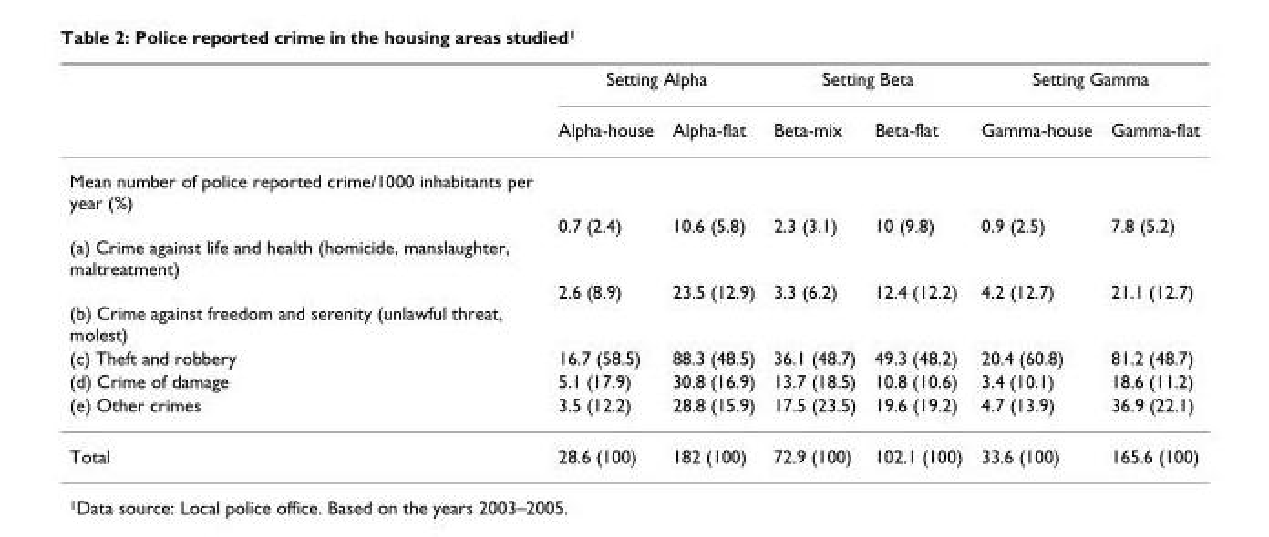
<table><thead><tr><td rowspan="2"></td><td colspan="2">Setting Alpha</td><td colspan="2">Setting Beta</td><td colspan="2">Setting Gamma</td></tr><tr><td>Alpha-house</td><td>Alpha-flat</td><td>Beta-mix</td><td>Beta-flat</td><td>Gamma-house</td><td>Gamma-flat</td></tr></thead><tbody><tr><td colspan="7">Mean number of police reported crime/1000 inhabitants per year (%)</td></tr><tr><td>(a) Crime against life and health (homicide, manslaughter, maltreatment)</td><td>0.7 (2.4)</td><td>10.6 (5.8)</td><td>2.3 (3.1)</td><td>10 (9.8)</td><td>0.9 (2.5)</td><td>7.8 (5.2)</td></tr><tr><td>(b) Crime against freedom and serenity (unlawful threat, molest)</td><td>2.6 (8.9)</td><td>23.5 (12.9)</td><td>3.3 (6.2)</td><td>12.4 (12.2)</td><td>4.2 (12.7)</td><td>21.1 (12.7)</td></tr><tr><td>(c) Theft and robbery</td><td>16.7 (58.5)</td><td>88.3 (48.5)</td><td>36.1 (48.7)</td><td>49.3 (48.2)</td><td>20.4 (60.8)</td><td>81.2 (48.7)</td></tr><tr><td>(d) Crime of damage</td><td>5.1 (17.9)</td><td>30.8 (16.9)</td><td>13.7 (18.5)</td><td>10.8 (10.6)</td><td>3.4 (10.1)</td><td>18.6 (11.2)</td></tr><tr><td>(e) Other crimes</td><td>3.5 (12.2)</td><td>28.8 (15.9)</td><td>17.5 (23.5)</td><td>19.6 (19.2)</td><td>4.7 (13.9)</td><td>36.9 (22.1)</td></tr><tr><td>Total</td><td>28.6 (100)</td><td>182 (100)</td><td>72.9 (100)</td><td>102.1 (100)</td><td>33.6 (100)</td><td>165.6 (100)</td></tr></tbody></table>